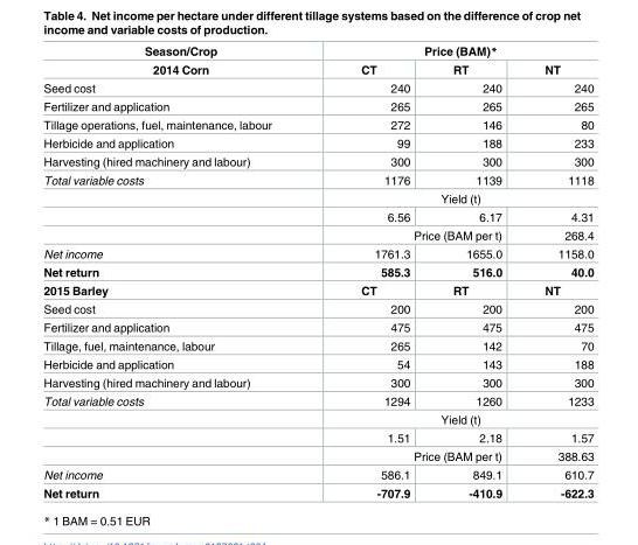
<table><thead><tr><td rowspan="2">Season/Crop 2014 Corn</td><td colspan="3">Price (BAM)*</td></tr><tr><td>CT</td><td>RT</td><td>NT</td></tr></thead><tbody><tr><td>Seed cost</td><td>240</td><td>240</td><td>240</td></tr><tr><td>Fertilizer and application</td><td>265</td><td>265</td><td>265</td></tr><tr><td>Tillage operations, fuel, maintenance, labour</td><td>272</td><td>146</td><td>80</td></tr><tr><td>Herbicide and application</td><td>99</td><td>188</td><td>233</td></tr><tr><td>Harvesting (hired machinery and labour)</td><td>300</td><td>300</td><td>300</td></tr><tr><td rowspan="4">Total variable costs</td><td>1176</td><td>1139</td><td>1118</td></tr><tr><td colspan="3">Yield (t)</td></tr><tr><td>6.56</td><td>6.17</td><td>4.31</td></tr><tr><td colspan="2">Price (BAM per t)</td><td>268.4</td></tr><tr><td>Net income</td><td>1761.3</td><td>1655.0</td><td>1158.0</td></tr><tr><td>Net return</td><td>585.3</td><td>516.0</td><td>40.0</td></tr><tr><td>2015 Barley</td><td>CT</td><td>RT</td><td>NT</td></tr><tr><td>Seed cost</td><td>200</td><td>200</td><td>200</td></tr><tr><td>Fertilizer and application</td><td>475</td><td>475</td><td>475</td></tr><tr><td>Tillage, fuel, maintenance, labour</td><td>265</td><td>142</td><td>70</td></tr><tr><td>Herbicide and application</td><td>54</td><td>143</td><td>188</td></tr><tr><td>Harvesting (hired machinery and labour)</td><td>300</td><td>300</td><td>300</td></tr><tr><td rowspan="4">Total variable costs</td><td>1294</td><td>1260</td><td>1233</td></tr><tr><td colspan="3">Yield (t)</td></tr><tr><td>1.51</td><td>2.18</td><td>1.57</td></tr><tr><td colspan="2">Price (BAM per t)</td><td>388.63</td></tr><tr><td>Net income</td><td>586.1</td><td>849.1</td><td>610.7</td></tr><tr><td>Net return</td><td>-707.9</td><td>-410.9</td><td>-622.3</td></tr></tbody></table>